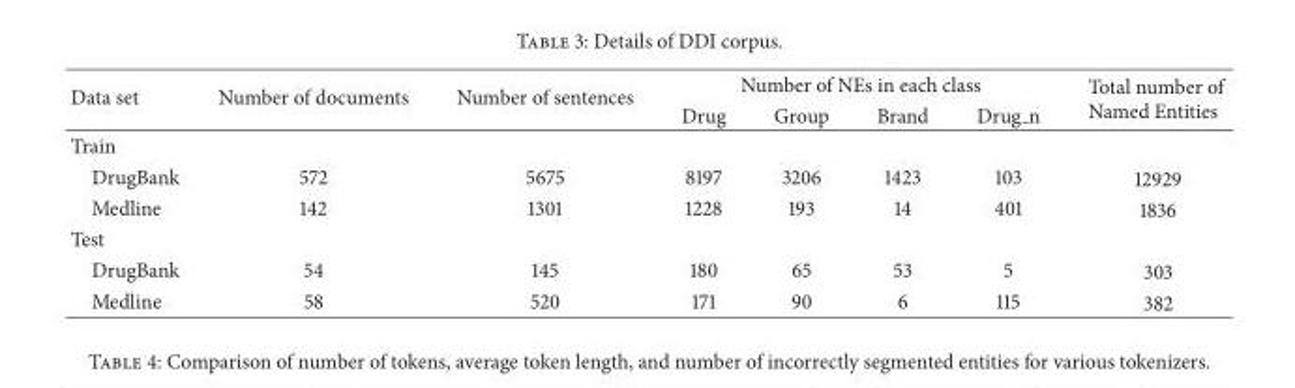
<table><thead><tr><td rowspan="2">Data set</td><td rowspan="2">Number of documents</td><td rowspan="2">Number of sentences</td><td colspan="4">Number of NEs in each class</td><td rowspan="2">Total number of Named Entities</td></tr><tr><td>Drug</td><td>Group</td><td>Brand</td><td>Drug n</td></tr></thead><tbody><tr><td colspan="8">Train</td></tr><tr><td>DrugBank</td><td>572</td><td>5675</td><td>8197</td><td>3206</td><td>1423</td><td>103</td><td>12929</td></tr><tr><td>Medline</td><td>142</td><td>1301</td><td>1228</td><td>193</td><td>14</td><td>401</td><td>1836</td></tr><tr><td colspan="8">Test</td></tr><tr><td>DrugBank</td><td>54</td><td>145</td><td>180</td><td>65</td><td>53</td><td>5</td><td>303</td></tr><tr><td>Medline</td><td>58</td><td>520</td><td>171</td><td>90</td><td>6</td><td>115</td><td>382</td></tr></tbody></table>